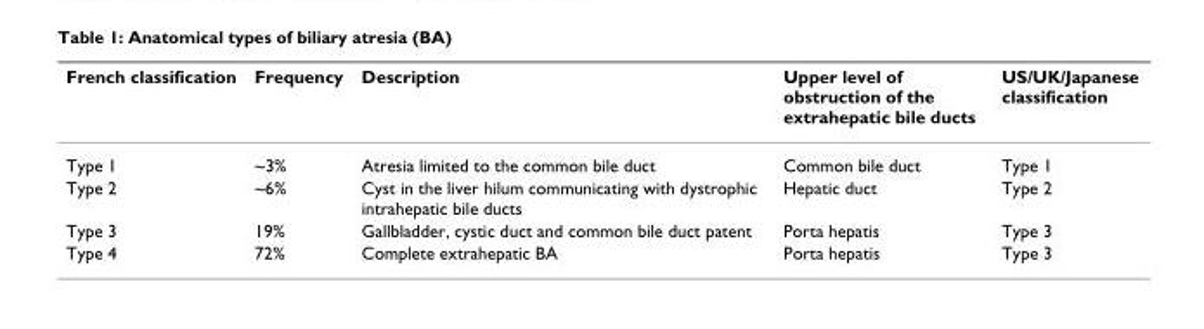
<table><thead><tr><td>French classification</td><td>Frequency</td><td>Description</td><td>Upper level of obstruction of the extrahepatic bile ducts</td><td>US/UK/Japanese classification</td></tr></thead><tbody><tr><td>Type 1</td><td>~3%</td><td>Atresia limited to the common bile duct</td><td>Common bile duct</td><td>Type 1</td></tr><tr><td>Type 2</td><td>~6%</td><td>Cyst in the liver hilum communicating with dystrophic intrahepatic bile ducts</td><td>Hepatic duct</td><td>Type 2</td></tr><tr><td>Type 3</td><td>19%</td><td>Gallbladder, cystic duct and common bile duct patent</td><td>Porta hepatis</td><td>Type 3</td></tr><tr><td>Type 4</td><td>72%</td><td>Complete extrahepatic BA</td><td>Porta hepatis</td><td>Type 3</td></tr></tbody></table>